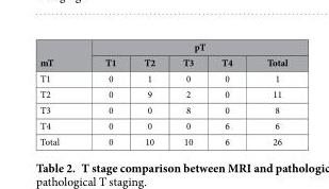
<table><thead><tr><td rowspan="2">mT</td><td colspan="5">pT</td></tr><tr><td>T1</td><td>T2</td><td>T3</td><td>T4</td><td>Total</td></tr></thead><tbody><tr><td>T1</td><td>0</td><td>1</td><td>0</td><td>0</td><td>1</td></tr><tr><td>T2</td><td>0</td><td>9</td><td>2</td><td>0</td><td>11</td></tr><tr><td>T3</td><td>0</td><td>0</td><td>8</td><td>0</td><td>8</td></tr><tr><td>T4</td><td>0</td><td>0</td><td>0</td><td>6</td><td>6</td></tr><tr><td>Total</td><td>0</td><td>10</td><td>10</td><td>6</td><td>26</td></tr></tbody></table>